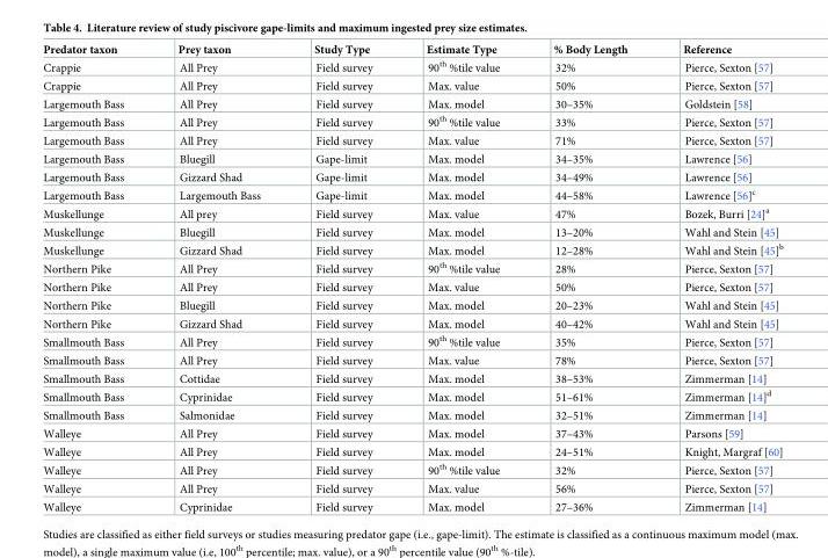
<table><thead><tr><td>Predator taxon</td><td>Prey taxon</td><td>Study Type</td><td>Estimate Type</td><td>% Body Length</td><td>Reference</td></tr></thead><tbody><tr><td>Crappie</td><td>All Prey</td><td>Field survey</td><td>90<sup>th</sup> %tile value</td><td>32%</td><td>Pierce, Sexton [57]</td></tr><tr><td>Crappie</td><td>All Prey</td><td>Field survey</td><td>Max. value</td><td>50%</td><td>Pierce, Sexton [57]</td></tr><tr><td>Largemouth Bass</td><td>All Prey</td><td>Field survey</td><td>Max. model</td><td>30–35%</td><td>Goldstein [58]</td></tr><tr><td>Largemouth Bass</td><td>All Prey</td><td>Field survey</td><td>90<sup>th</sup> %tile value</td><td>33%</td><td>Pierce, Sexton [57]</td></tr><tr><td>Largemouth Bass</td><td>All Prey</td><td>Field survey</td><td>Max. value</td><td>71%</td><td>Pierce, Sexton [57]</td></tr><tr><td>Largemouth Bass</td><td>Bluegill</td><td>Gape-limit</td><td>Max. model</td><td>34–35%</td><td>Lawrence [56]</td></tr><tr><td>Largemouth Bass</td><td>Gizzard Shad</td><td>Gape-limit</td><td>Max. model</td><td>34–49%</td><td>Lawrence [56]</td></tr><tr><td>Largemouth Bass</td><td>Largemouth Bass</td><td>Gape-limit</td><td>Max. model</td><td>44–58%</td><td>Lawrence [56]<sup>c</sup></td></tr><tr><td>Muskellunge</td><td>All prey</td><td>Field survey</td><td>Max. value</td><td>47%</td><td>Bozek, Burri [24]<sup>a</sup></td></tr><tr><td>Muskellunge</td><td>Bluegill</td><td>Field survey</td><td>Max. model</td><td>13–20%</td><td>Wahl and Stein [45]</td></tr><tr><td>Muskellunge</td><td>Gizzard Shad</td><td>Field survey</td><td>Max. model</td><td>12–28%</td><td>Wahl and Stein [45]<sup>b</sup></td></tr><tr><td>Northern Pike</td><td>All Prey</td><td>Field survey</td><td>90<sup>th</sup> %tile value</td><td>28%</td><td>Pierce, Sexton [57]</td></tr><tr><td>Northern Pike</td><td>All Prey</td><td>Field survey</td><td>Max. value</td><td>50%</td><td>Pierce, Sexton [57]</td></tr><tr><td>Northern Pike</td><td>Bluegill</td><td>Field survey</td><td>Max. model</td><td>20–23%</td><td>Wahl and Stein [45]</td></tr><tr><td>Northern Pike</td><td>Gizzard Shad</td><td>Field survey</td><td>Max. model</td><td>40–42%</td><td>Wahl and Stein [45]</td></tr><tr><td>Smallmouth Bass</td><td>All Prey</td><td>Field survey</td><td>90<sup>th</sup> %tile value</td><td>35%</td><td>Pierce, Sexton [57]</td></tr><tr><td>Smallmouth Bass</td><td>All Prey</td><td>Field survey</td><td>Max. value</td><td>78%</td><td>Pierce, Sexton [57]</td></tr><tr><td>Smallmouth Bass</td><td>Cottidae</td><td>Field survey</td><td>Max. model</td><td>38–53%</td><td>Zimmerman [14]</td></tr><tr><td>Smallmouth Bass</td><td>Cyprinidae</td><td>Field survey</td><td>Max. model</td><td>51–61%</td><td>Zimmerman [14]<sup>d</sup></td></tr><tr><td>Smallmouth Bass</td><td>Salmonidae</td><td>Field survey</td><td>Max. model</td><td>32–51%</td><td>Zimmerman [14]</td></tr><tr><td>Walleye</td><td>All Prey</td><td>Field survey</td><td>Max. model</td><td>37–43%</td><td>Parsons [59]</td></tr><tr><td>Walleye</td><td>All Prey</td><td>Field survey</td><td>Max. model</td><td>24–51%</td><td>Knight, Margraf [60]</td></tr><tr><td>Walleye</td><td>All Prey</td><td>Field survey</td><td>90<sup>th</sup> %tile value</td><td>32%</td><td>Pierce, Sexton [57]</td></tr><tr><td>Walleye</td><td>All Prey</td><td>Field survey</td><td>Max. value</td><td>56%</td><td>Pierce, Sexton [57]</td></tr><tr><td>Walleye</td><td>Cyprinidae</td><td>Field survey</td><td>Max. model</td><td>27–36%</td><td>Zimmerman [14]</td></tr></tbody></table>